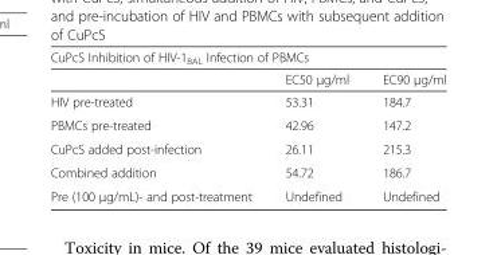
<table><thead><tr><td colspan="3">CuPcS Inhibition of HIV-1<sub>BAL</sub> Infection of PBMCs</td></tr><tr><td></td><td>EC50 μg/ml</td><td>EC90 μg/ml</td></tr></thead><tbody><tr><td>HIV pre-treated</td><td>53.31</td><td>184.7</td></tr><tr><td>PBMCs pre-treated</td><td>42.96</td><td>147.2</td></tr><tr><td>CuPcS added post-infection</td><td>26.11</td><td>215.3</td></tr><tr><td>Combined addition</td><td>54.72</td><td>186.7</td></tr><tr><td>Pre (100 μg/mL)- and post-treatment</td><td>Undefined</td><td>Undefined</td></tr></tbody></table>